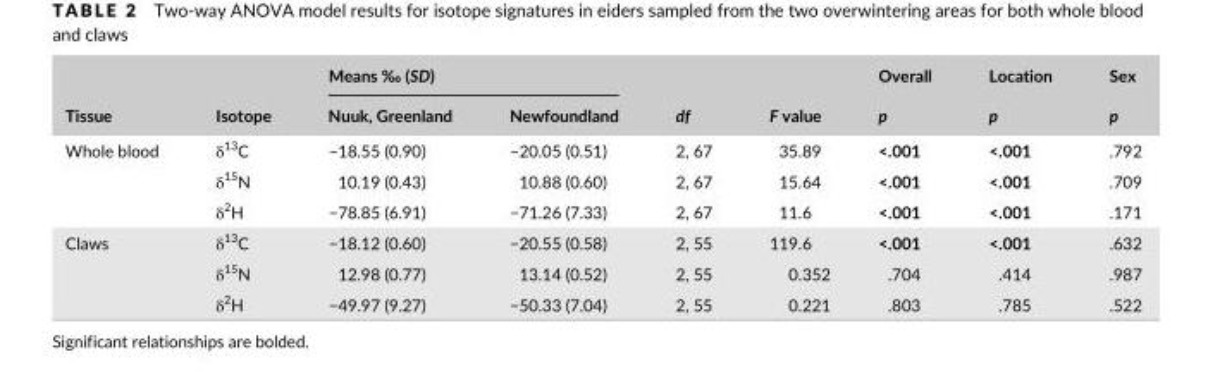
<table><thead><tr><td rowspan="2">Tissue</td><td rowspan="2">Isotope</td><td colspan="2">Means ‰ (SD)</td><td rowspan="2">df</td><td rowspan="2">F value</td><td rowspan="2">Overall p</td><td rowspan="2">Location p</td><td rowspan="2">Sex p</td></tr><tr><td>Nuuk, Greenland</td><td>Newfoundland</td></tr></thead><tbody><tr><td rowspan="3">Whole blood</td><td>δ<sup>13</sup>C</td><td>−18.55 (0.90)</td><td>−20.05 (0.51)</td><td>2, 67</td><td>35.89</td><td>&lt;.001</td><td>&lt;.001</td><td>.792</td></tr><tr><td>δ<sup>15</sup>N</td><td>10.19 (0.43)</td><td>10.88 (0.60)</td><td>2, 67</td><td>15.64</td><td>&lt;.001</td><td>&lt;.001</td><td>.709</td></tr><tr><td>δ<sup>2</sup>H</td><td>−78.85 (6.91)</td><td>−71.26 (7.33)</td><td>2, 67</td><td>11.6</td><td>&lt;.001</td><td>&lt;.001</td><td>.171</td></tr><tr><td rowspan="3">Claws</td><td>δ<sup>13</sup>C</td><td>−18.12 (0.60)</td><td>−20.55 (0.58)</td><td>2, 55</td><td>119.6</td><td>&lt;.001</td><td>&lt;.001</td><td>.632</td></tr><tr><td>δ<sup>15</sup>N</td><td>12.98 (0.77)</td><td>13.14 (0.52)</td><td>2, 55</td><td>0.352</td><td>.704</td><td>.414</td><td>.987</td></tr><tr><td>δ<sup>2</sup>H</td><td>−49.97 (9.27)</td><td>−50.33 (7.04)</td><td>2, 55</td><td>0.221</td><td>.803</td><td>.785</td><td>.522</td></tr></tbody></table>